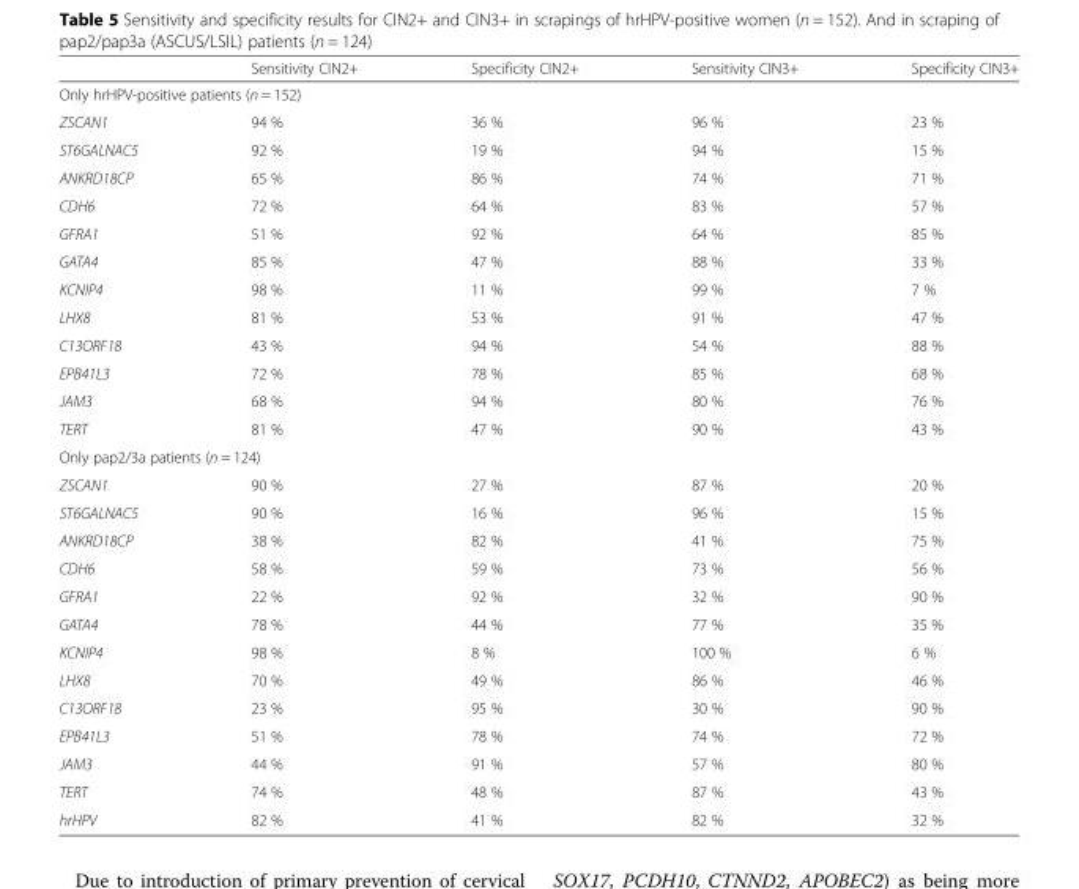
<table><thead><tr><td></td><td>Sensitivity CIN2+</td><td>Specificity CIN2+</td><td>Sensitivity CIN3+</td><td>Specificity CIN3+</td></tr></thead><tbody><tr><td colspan="5">Only hrHPV-positive patients (n = 152)</td></tr><tr><td>ZSCAN1</td><td>94 %</td><td>36 %</td><td>96 %</td><td>23 %</td></tr><tr><td>ST6GALNAC5</td><td>92 %</td><td>19 %</td><td>94 %</td><td>15 %</td></tr><tr><td>ANKRD18CP</td><td>65 %</td><td>86 %</td><td>74 %</td><td>71 %</td></tr><tr><td>CDH6</td><td>72 %</td><td>64 %</td><td>83 %</td><td>57 %</td></tr><tr><td>GFRA1</td><td>51 %</td><td>92 %</td><td>64 %</td><td>85 %</td></tr><tr><td>GATA4</td><td>85 %</td><td>47 %</td><td>88 %</td><td>33 %</td></tr><tr><td>KCNIP4</td><td>98 %</td><td>11 %</td><td>99 %</td><td>7 %</td></tr><tr><td>LHX8</td><td>81 %</td><td>53 %</td><td>91 %</td><td>47 %</td></tr><tr><td>C13ORF18</td><td>43 %</td><td>94 %</td><td>54 %</td><td>88 %</td></tr><tr><td>EPB41L3</td><td>72 %</td><td>78 %</td><td>85 %</td><td>68 %</td></tr><tr><td>JAM3</td><td>68 %</td><td>94 %</td><td>80 %</td><td>76 %</td></tr><tr><td>TERT</td><td>81 %</td><td>47 %</td><td>90 %</td><td>43 %</td></tr><tr><td colspan="5">Only pap2/3a patients (n = 124)</td></tr><tr><td>ZSCAN1</td><td>90 %</td><td>27 %</td><td>87 %</td><td>20 %</td></tr><tr><td>ST6GALNAC5</td><td>90 %</td><td>16 %</td><td>96 %</td><td>15 %</td></tr><tr><td>ANKRD18CP</td><td>38 %</td><td>82 %</td><td>41 %</td><td>75 %</td></tr><tr><td>CDH6</td><td>58 %</td><td>59 %</td><td>73 %</td><td>56 %</td></tr><tr><td>GFRA1</td><td>22 %</td><td>92 %</td><td>32 %</td><td>90 %</td></tr><tr><td>GATA4</td><td>78 %</td><td>44 %</td><td>77 %</td><td>35 %</td></tr><tr><td>KCNIP4</td><td>98 %</td><td>8 %</td><td>100 %</td><td>6 %</td></tr><tr><td>LHX8</td><td>70 %</td><td>49 %</td><td>86 %</td><td>46 %</td></tr><tr><td>C13ORF18</td><td>23 %</td><td>95 %</td><td>30 %</td><td>90 %</td></tr><tr><td>EPB41L3</td><td>51 %</td><td>78 %</td><td>74 %</td><td>72 %</td></tr><tr><td>JAM3</td><td>44 %</td><td>91 %</td><td>57 %</td><td>80 %</td></tr><tr><td>TERT</td><td>74 %</td><td>48 %</td><td>87 %</td><td>43 %</td></tr><tr><td>hrHPV</td><td>82 %</td><td>41 %</td><td>82 %</td><td>32 %</td></tr></tbody></table>